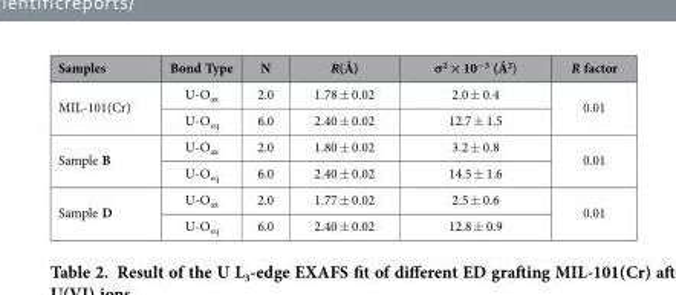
<table><thead><tr><td>Samples</td><td>Bond Type</td><td>N</td><td>R(Å)</td><td>σ<sup>2</sup> × 10<sup>−3</sup> (Å<sup>2</sup>)</td><td>R factor</td></tr></thead><tbody><tr><td rowspan="2">MIL-101(Cr)</td><td>U-O<sub>ax</sub></td><td>2.0</td><td>1.78 ± 0.02</td><td>2.0 ± 0.4</td><td rowspan="2">0.01</td></tr><tr><td>U-O<sub>eq</sub></td><td>6.0</td><td>2.40 ± 0.02</td><td>12.7 ± 1.5</td></tr><tr><td rowspan="2">Sample B</td><td>U-O<sub>ax</sub></td><td>2.0</td><td>1.80 ± 0.02</td><td>3.2 ± 0.8</td><td rowspan="2">0.01</td></tr><tr><td>U-O<sub>eq</sub></td><td>6.0</td><td>2.40 ± 0.02</td><td>14.5 ± 1.6</td></tr><tr><td rowspan="2">Sample D</td><td>U-O<sub>ax</sub></td><td>2.0</td><td>1.77 ± 0.02</td><td>2.5 ± 0.6</td><td rowspan="2">0.01</td></tr><tr><td>U-O<sub>eq</sub></td><td>6.0</td><td>2.40 ± 0.02</td><td>12.8 ± 0.9</td></tr></tbody></table>